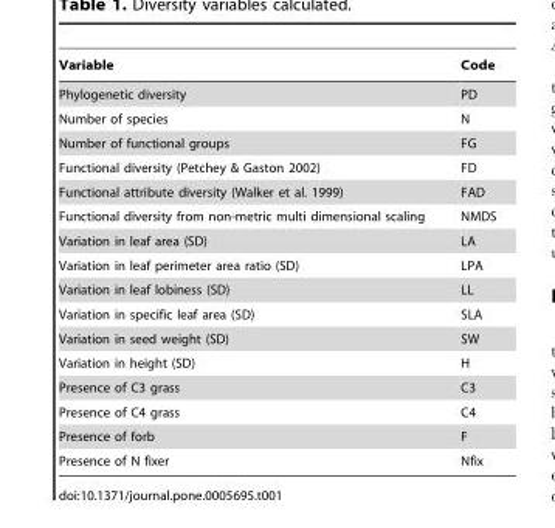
<table><thead><tr><td>Variable</td><td>Code</td></tr></thead><tbody><tr><td>Phylogenetic diversity</td><td>PD</td></tr><tr><td>Number of species</td><td>N</td></tr><tr><td>Number of functional groups</td><td>FG</td></tr><tr><td>Functional diversity (Petchey &amp; Gaston 2002)</td><td>FD</td></tr><tr><td>Functional attribute diversity (Walker et al. 1999)</td><td>FAD</td></tr><tr><td>Functional diversity from non-metric multi dimensional scaling</td><td>NMDS</td></tr><tr><td>Variation in leaf area (SD)</td><td>LA</td></tr><tr><td>Variation in leaf perimeter area ratio (SD)</td><td>LPA</td></tr><tr><td>Variation in leaf lobiness (SD)</td><td>LL</td></tr><tr><td>Variation in specific leaf area (SD)</td><td>SLA</td></tr><tr><td>Variation in seed weight (SD)</td><td>SW</td></tr><tr><td>Variation in height (SD)</td><td>H</td></tr><tr><td>Presence of C3 grass</td><td>C3</td></tr><tr><td>Presence of C4 grass</td><td>C4</td></tr><tr><td>Presence of forb</td><td>F</td></tr><tr><td>Presence of N fixer</td><td>Nfix</td></tr></tbody></table>